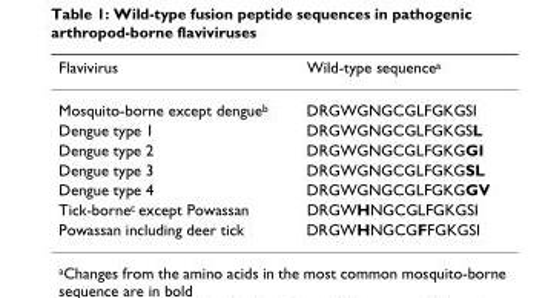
<table><thead><tr><td>Flavivirus</td><td>Wild-type sequence<sup>a</sup></td></tr></thead><tbody><tr><td>Mosquito-borne except dengue<sup>b</sup></td><td>DRGWGNGCGLFGKGSI</td></tr><tr><td>Dengue type 1</td><td>DRGWGNGCGLFGKGSL</td></tr><tr><td>Dengue type 2</td><td>DRGWGNGCGLFGKGGI</td></tr><tr><td>Dengue type 3</td><td>DRGWGNGCGLFGKGSL</td></tr><tr><td>Dengue type 4</td><td>DRGWGNGCGLFGKGGV</td></tr><tr><td>Tick-borne<sup>c</sup> except Powassan</td><td>DRGWHNGCGLFGKGSI</td></tr><tr><td>Powassan including deer tick</td><td>DRGWHNGCGFFGKGSI</td></tr></tbody></table>